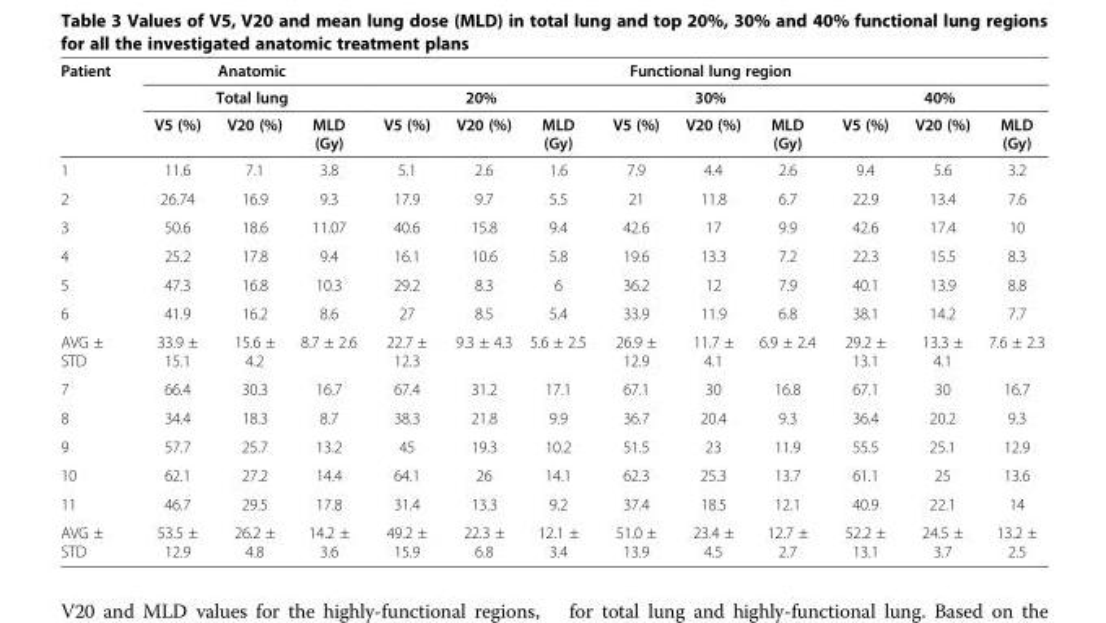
<table><thead><tr><td rowspan="3">Patient</td><td rowspan="2" colspan="3">Anatomic Total lung</td><td colspan="9">Functional lung region</td></tr><tr><td colspan="3">20%</td><td colspan="3">30%</td><td colspan="3">40%</td></tr><tr><td>V5 (%)</td><td>V20 (%)</td><td>MLD (Gy)</td><td>V5 (%)</td><td>V20 (%)</td><td>MLD (Gy)</td><td>V5 (%)</td><td>V20 (%)</td><td>MLD (Gy)</td><td>V5 (%)</td><td>V20 (%)</td><td>MLD (Gy)</td></tr></thead><tbody><tr><td>1</td><td>11.6</td><td>7.1</td><td>3.8</td><td>5.1</td><td>2.6</td><td>1.6</td><td>7.9</td><td>4.4</td><td>2.6</td><td>9.4</td><td>5.6</td><td>3.2</td></tr><tr><td>2</td><td>26.74</td><td>16.9</td><td>9.3</td><td>17.9</td><td>9.7</td><td>5.5</td><td>21</td><td>11.8</td><td>6.7</td><td>22.9</td><td>13.4</td><td>7.6</td></tr><tr><td>3</td><td>50.6</td><td>18.6</td><td>11.07</td><td>40.6</td><td>15.8</td><td>9.4</td><td>42.6</td><td>17</td><td>9.9</td><td>42.6</td><td>17.4</td><td>10</td></tr><tr><td>4</td><td>25.2</td><td>17.8</td><td>9.4</td><td>16.1</td><td>10.6</td><td>5.8</td><td>19.6</td><td>13.3</td><td>7.2</td><td>22.3</td><td>15.5</td><td>8.3</td></tr><tr><td>5</td><td>47.3</td><td>16.8</td><td>10.3</td><td>29.2</td><td>8.3</td><td>6</td><td>36.2</td><td>12</td><td>7.9</td><td>40.1</td><td>13.9</td><td>8.8</td></tr><tr><td>6</td><td>41.9</td><td>16.2</td><td>8.6</td><td>27</td><td>8.5</td><td>5.4</td><td>33.9</td><td>11.9</td><td>6.8</td><td>38.1</td><td>14.2</td><td>7.7</td></tr><tr><td>AVG ± STD</td><td>33.9 ± 15.1</td><td>15.6 ± 4.2</td><td>8.7 ± 2.6</td><td>22.7 ± 12.3</td><td>9.3 ± 4.3</td><td>5.6 ± 2.5</td><td>26.9 ± 12.9</td><td>11.7 ± 4.1</td><td>6.9 ± 2.4</td><td>29.2 ± 13.1</td><td>13.3 ± 4.1</td><td>7.6 ± 2.3</td></tr><tr><td>7</td><td>66.4</td><td>30.3</td><td>16.7</td><td>67.4</td><td>31.2</td><td>17.1</td><td>67.1</td><td>30</td><td>16.8</td><td>67.1</td><td>30</td><td>16.7</td></tr><tr><td>8</td><td>34.4</td><td>18.3</td><td>8.7</td><td>38.3</td><td>21.8</td><td>9.9</td><td>36.7</td><td>20.4</td><td>9.3</td><td>36.4</td><td>20.2</td><td>9.3</td></tr><tr><td>9</td><td>57.7</td><td>25.7</td><td>13.2</td><td>45</td><td>19.3</td><td>10.2</td><td>51.5</td><td>23</td><td>11.9</td><td>55.5</td><td>25.1</td><td>12.9</td></tr><tr><td>10</td><td>62.1</td><td>27.2</td><td>14.4</td><td>64.1</td><td>26</td><td>14.1</td><td>62.3</td><td>25.3</td><td>13.7</td><td>61.1</td><td>25</td><td>13.6</td></tr><tr><td>11</td><td>46.7</td><td>29.5</td><td>17.8</td><td>31.4</td><td>13.3</td><td>9.2</td><td>37.4</td><td>18.5</td><td>12.1</td><td>40.9</td><td>22.1</td><td>14</td></tr><tr><td>AVG ± STD</td><td>53.5 ± 12.9</td><td>26.2 ± 4.8</td><td>14.2 ± 3.6</td><td>49.2 ± 15.9</td><td>22.3 ± 6.8</td><td>12.1 ± 3.4</td><td>51.0 ± 13.9</td><td>23.4 ± 4.5</td><td>12.7 ± 2.7</td><td>52.2 ± 13.1</td><td>24.5 ± 3.7</td><td>13.2 ± 2.5</td></tr></tbody></table>